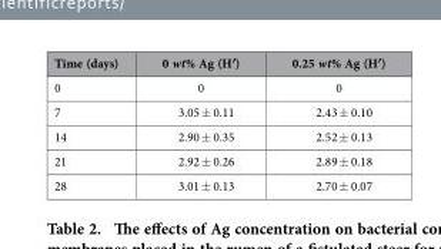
<table><thead><tr><td>Time (days)</td><td>0 wt% Ag (H′)</td><td>0.25 wt% Ag (H′)</td></tr></thead><tbody><tr><td>0</td><td>0</td><td>0</td></tr><tr><td>7</td><td>3.05 ± 0.11</td><td>2.43 ± 0.10</td></tr><tr><td>14</td><td>2.90 ± 0.35</td><td>2.52 ± 0.13</td></tr><tr><td>21</td><td>2.92 ± 0.26</td><td>2.89 ± 0.18</td></tr><tr><td>28</td><td>3.01 ± 0.13</td><td>2.70 ± 0.07</td></tr></tbody></table>